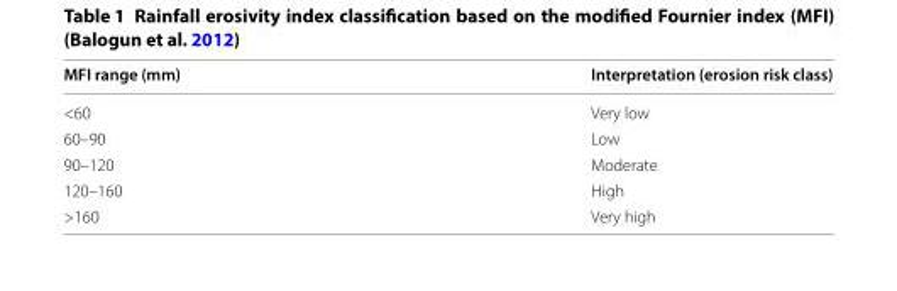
<table><thead><tr><td>MFI range (mm)</td><td>Interpretation (erosion risk class)</td></tr></thead><tbody><tr><td>&lt;60</td><td>Very low</td></tr><tr><td>60–90</td><td>Low</td></tr><tr><td>90–120</td><td>Moderate</td></tr><tr><td>120–160</td><td>High</td></tr><tr><td>&gt;160</td><td>Very high</td></tr></tbody></table>